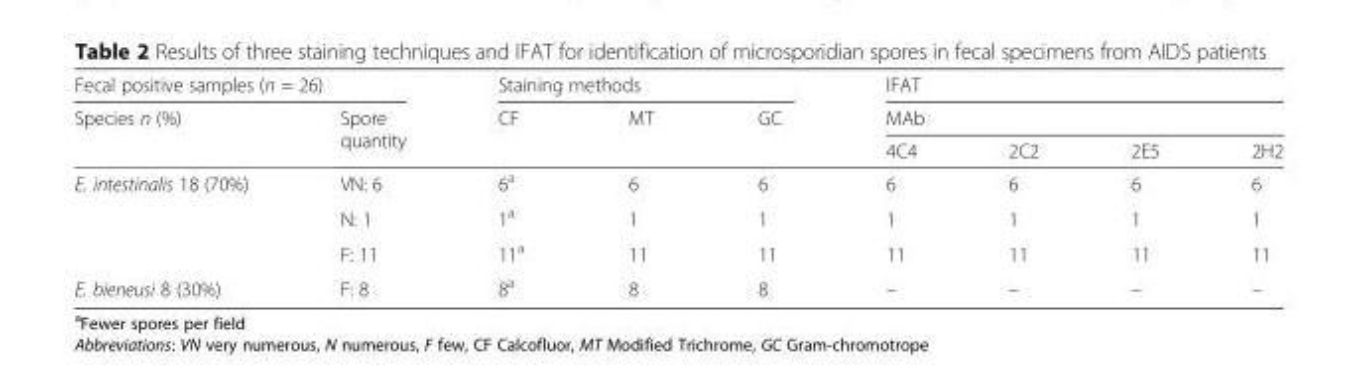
<table><thead><tr><td colspan="2">Fecal positive samples (n = 26)</td><td colspan="3">Staining methods</td><td rowspan="2" colspan="4">IFAT MAb</td></tr><tr><td rowspan="2">Species n (%)</td><td rowspan="2">Spore quantity</td><td rowspan="2">CF</td><td rowspan="2">MT</td><td rowspan="2">GC</td></tr><tr><td>4C4</td><td>2C2</td><td>2E5</td><td>2H2</td></tr></thead><tbody><tr><td rowspan="3">E. intestinalis 18 (70%)</td><td>VN: 6</td><td>6<sup>a</sup></td><td>6</td><td>6</td><td>6</td><td>6</td><td>6</td><td>6</td></tr><tr><td>N: 1</td><td>1<sup>a</sup></td><td>1</td><td>1</td><td>1</td><td>1</td><td>1</td><td>1</td></tr><tr><td>F: 11</td><td>11<sup>a</sup></td><td>11</td><td>11</td><td>11</td><td>11</td><td>11</td><td>11</td></tr><tr><td>E. bieneusi 8 (30%)</td><td>F: 8</td><td>8<sup>a</sup></td><td>8</td><td>8</td><td>–</td><td>–</td><td>–</td><td>–</td></tr></tbody></table>